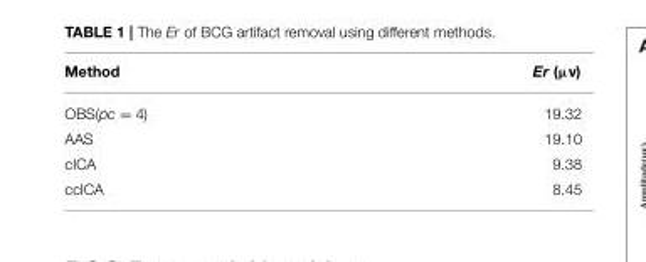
<table><thead><tr><td>Method</td><td>Er (µv)</td></tr></thead><tbody><tr><td>OBS(pc = 4)</td><td>19.32</td></tr><tr><td>AAS</td><td>19.10</td></tr><tr><td>cICA</td><td>9.38</td></tr><tr><td>ccICA</td><td>8.45</td></tr></tbody></table>